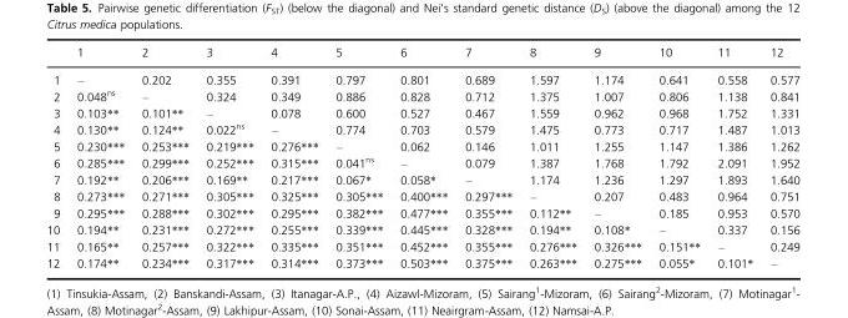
<table><thead><tr><td></td><td>1</td><td>2</td><td>3</td><td>4</td><td>5</td><td>6</td><td>7</td><td>8</td><td>9</td><td>10</td><td>11</td><td>12</td></tr></thead><tbody><tr><td>1</td><td>–</td><td>0.202</td><td>0.355</td><td>0.391</td><td>0.797</td><td>0.801</td><td>0.689</td><td>1.597</td><td>1.174</td><td>0.641</td><td>0.558</td><td>0.577</td></tr><tr><td>2</td><td>0.048<sup>ns</sup></td><td>–</td><td>0.324</td><td>0.349</td><td>0.886</td><td>0.828</td><td>0.712</td><td>1.375</td><td>1.007</td><td>0.806</td><td>1.138</td><td>0.841</td></tr><tr><td>3</td><td>0.103**</td><td>0.101**</td><td>–</td><td>0.078</td><td>0.600</td><td>0.527</td><td>0.467</td><td>1.559</td><td>0.962</td><td>0.968</td><td>1.752</td><td>1.331</td></tr><tr><td>4</td><td>0.130**</td><td>0.124**</td><td>0.022<sup>ns</sup></td><td>–</td><td>0.774</td><td>0.703</td><td>0.579</td><td>1.475</td><td>0.773</td><td>0.717</td><td>1.487</td><td>1.013</td></tr><tr><td>5</td><td>0.230***</td><td>0.253***</td><td>0.219***</td><td>0.276***</td><td>–</td><td>0.062</td><td>0.146</td><td>1.011</td><td>1.255</td><td>1.147</td><td>1.386</td><td>1.262</td></tr><tr><td>6</td><td>0.285***</td><td>0.299***</td><td>0.252***</td><td>0.315***</td><td>0.041<sup>ns</sup></td><td>–</td><td>0.079</td><td>1.387</td><td>1.768</td><td>1.792</td><td>2.091</td><td>1.952</td></tr><tr><td>7</td><td>0.192**</td><td>0.206***</td><td>0.169**</td><td>0.217***</td><td>0.067*</td><td>0.058*</td><td>–</td><td>1.174</td><td>1.236</td><td>1.297</td><td>1.893</td><td>1.640</td></tr><tr><td>8</td><td>0.273***</td><td>0.271***</td><td>0.305***</td><td>0.325***</td><td>0.305***</td><td>0.400***</td><td>0.297***</td><td>–</td><td>0.207</td><td>0.483</td><td>0.964</td><td>0.751</td></tr><tr><td>9</td><td>0.295***</td><td>0.288***</td><td>0.302***</td><td>0.295***</td><td>0.382***</td><td>0.477***</td><td>0.355***</td><td>0.112**</td><td>–</td><td>0.185</td><td>0.953</td><td>0.570</td></tr><tr><td>10</td><td>0.194**</td><td>0.231***</td><td>0.272***</td><td>0.255***</td><td>0.339***</td><td>0.445***</td><td>0.328***</td><td>0.194**</td><td>0.108*</td><td>–</td><td>0.337</td><td>0.156</td></tr><tr><td>11</td><td>0.165**</td><td>0.257***</td><td>0.322***</td><td>0.335***</td><td>0.351***</td><td>0.452***</td><td>0.355***</td><td>0.276***</td><td>0.326***</td><td>0.151**</td><td>–</td><td>0.249</td></tr><tr><td>12</td><td>0.174**</td><td>0.234***</td><td>0.317***</td><td>0.314***</td><td>0.373***</td><td>0.503***</td><td>0.375***</td><td>0.263***</td><td>0.275***</td><td>0.055*</td><td>0.101*</td><td>–</td></tr></tbody></table>